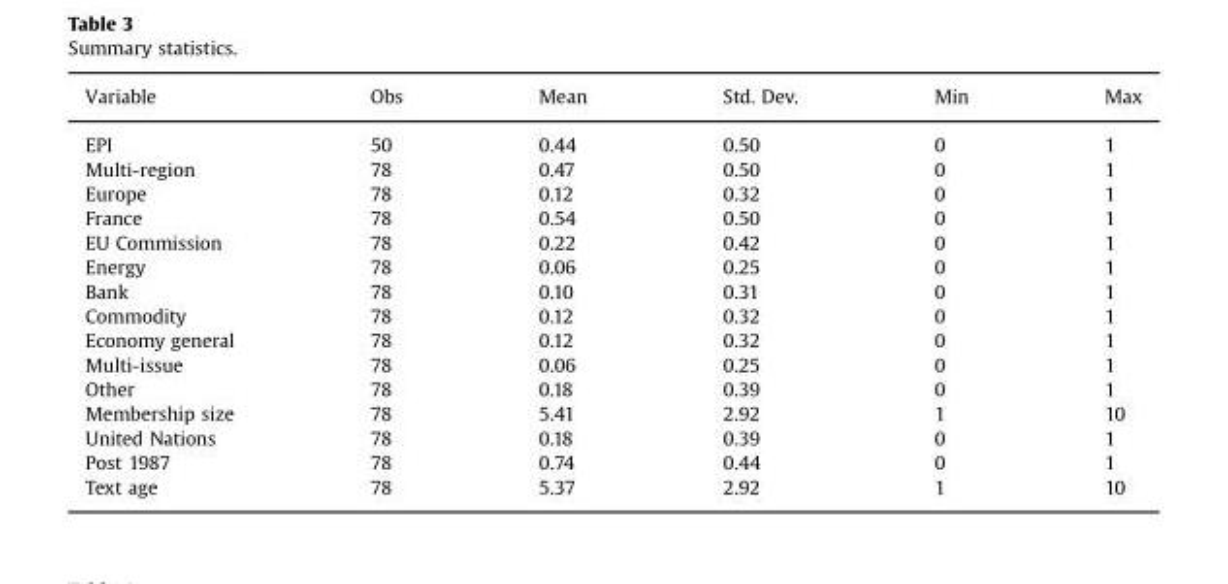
<table><thead><tr><td>Variable</td><td>Obs</td><td>Mean</td><td>Std. Dev.</td><td>Min</td><td>Max</td></tr></thead><tbody><tr><td>EPI</td><td>50</td><td>0.44</td><td>0.50</td><td>0</td><td>1</td></tr><tr><td>Multi-region</td><td>78</td><td>0.47</td><td>0.50</td><td>0</td><td>1</td></tr><tr><td>Europe</td><td>78</td><td>0.12</td><td>0.32</td><td>0</td><td>1</td></tr><tr><td>France</td><td>78</td><td>0.54</td><td>0.50</td><td>0</td><td>1</td></tr><tr><td>EU Commission</td><td>78</td><td>0.22</td><td>0.42</td><td>0</td><td>1</td></tr><tr><td>Energy</td><td>78</td><td>0.06</td><td>0.25</td><td>0</td><td>1</td></tr><tr><td>Bank</td><td>78</td><td>0.10</td><td>0.31</td><td>0</td><td>1</td></tr><tr><td>Commodity</td><td>78</td><td>0.12</td><td>0.32</td><td>0</td><td>1</td></tr><tr><td>Economy general</td><td>78</td><td>0.12</td><td>0.32</td><td>0</td><td>1</td></tr><tr><td>Multi-issue</td><td>78</td><td>0.06</td><td>0.25</td><td>0</td><td>1</td></tr><tr><td>Other</td><td>78</td><td>0.18</td><td>0.39</td><td>0</td><td>1</td></tr><tr><td>Membership size</td><td>78</td><td>5.41</td><td>2.92</td><td>1</td><td>10</td></tr><tr><td>United Nations</td><td>78</td><td>0.18</td><td>0.39</td><td>0</td><td>1</td></tr><tr><td>Post 1987</td><td>78</td><td>0.74</td><td>0.44</td><td>0</td><td>1</td></tr><tr><td>Text age</td><td>78</td><td>5.37</td><td>2.92</td><td>1</td><td>10</td></tr></tbody></table>